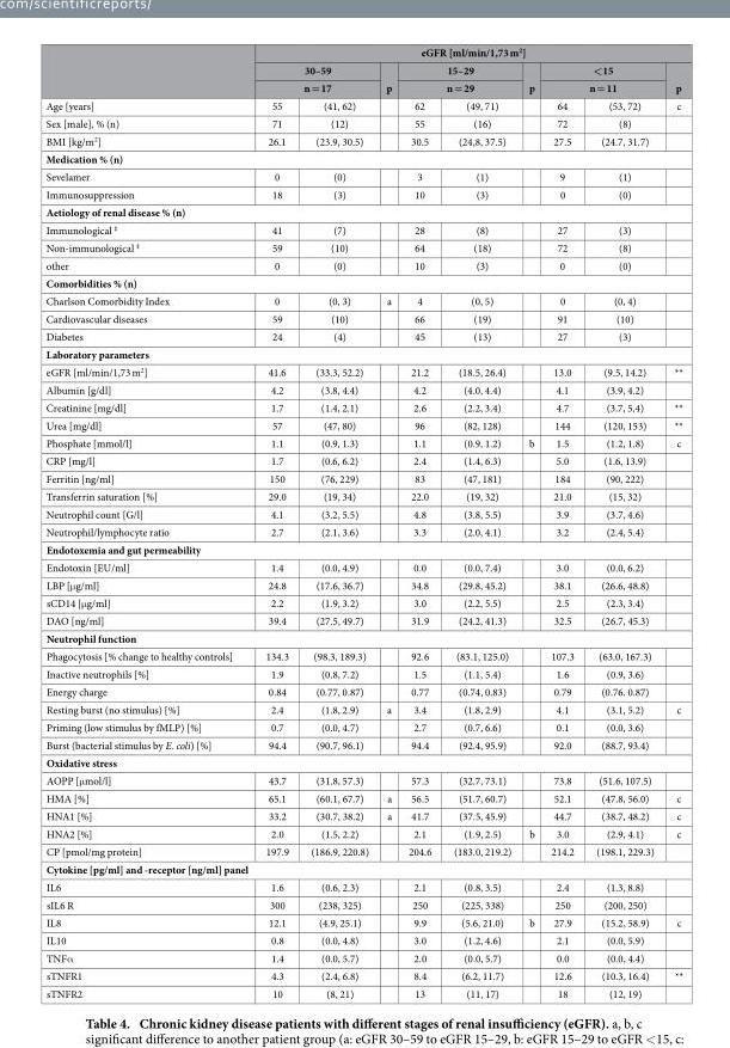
<table><thead><tr><td rowspan="4">Age [years]</td><td colspan="9">eGFR [ml/min/1,73 m<sup>2</sup>]</td></tr><tr><td rowspan="2" colspan="2">30–59 n = 17</td><td rowspan="3">p</td><td rowspan="2" colspan="2">15–29 n = 29</td><td rowspan="3">p</td><td rowspan="2" colspan="2">&lt;15 n = 11</td><td rowspan="3">p c</td></tr><tr></tr><tr><td>55</td><td>(41, 62)</td><td>62</td><td>(49, 71)</td><td>64</td><td>(53, 72)</td></tr></thead><tbody><tr><td>Sex [male], % (n)</td><td>71</td><td>(12)</td><td></td><td>55</td><td>(16)</td><td></td><td>72</td><td>(8)</td><td></td></tr><tr><td>BMI [kg/m<sup>2</sup>]</td><td>26.1</td><td>(23.9, 30.5)</td><td></td><td>30.5</td><td>(24,8, 37.5)</td><td></td><td>27.5</td><td>(24.7, 31.7)</td><td></td></tr><tr><td colspan="10">Medication % (n)</td></tr><tr><td>Sevelamer</td><td>0</td><td>(0)</td><td></td><td>3</td><td>(1)</td><td></td><td>9</td><td>(1)</td><td></td></tr><tr><td>Immunosuppression</td><td>18</td><td>(3)</td><td></td><td>10</td><td>(3)</td><td></td><td>0</td><td>(0)</td><td></td></tr><tr><td colspan="10">Aetiology of renal disease % (n)</td></tr><tr><td>Immunological ‡</td><td>41</td><td>(7)</td><td></td><td>28</td><td>(8)</td><td></td><td>27</td><td>(3)</td><td></td></tr><tr><td>Non-immunological ‡</td><td>59</td><td>(10)</td><td></td><td>64</td><td>(18)</td><td></td><td>72</td><td>(8)</td><td></td></tr><tr><td>other</td><td>0</td><td>(0)</td><td></td><td>10</td><td>(3)</td><td></td><td>0</td><td>(0)</td><td></td></tr><tr><td colspan="10">Comorbidities % (n)</td></tr><tr><td>Charlson Comorbidity Index</td><td>0</td><td>(0, 3)</td><td>a</td><td>4</td><td>(0, 5)</td><td></td><td>0</td><td>(0, 4)</td><td></td></tr><tr><td>Cardiovascular diseases</td><td>59</td><td>(10)</td><td></td><td>66</td><td>(19)</td><td></td><td>91</td><td>(10)</td><td></td></tr><tr><td>Diabetes</td><td>24</td><td>(4)</td><td></td><td>45</td><td>(13)</td><td></td><td>27</td><td>(3)</td><td></td></tr><tr><td colspan="10">Laboratory parameters</td></tr><tr><td>eGFR [ml/min/1,73 m<sup>2</sup>]</td><td>41.6</td><td>(33.3, 52.2)</td><td></td><td>21.2</td><td>(18.5, 26.4)</td><td></td><td>13.0</td><td>(9.5, 14.2)</td><td>**</td></tr><tr><td>Albumin [g/dl]</td><td>4.2</td><td>(3.8, 4.4)</td><td></td><td>4.2</td><td>(4.0, 4.4)</td><td></td><td>4.1</td><td>(3.9, 4.2)</td><td></td></tr><tr><td>Creatinine [mg/dl]</td><td>1.7</td><td>(1.4, 2.1)</td><td></td><td>2.6</td><td>(2.2, 3.4)</td><td></td><td>4.7</td><td>(3.7, 5.4)</td><td>**</td></tr><tr><td>Urea [mg/dl]</td><td>57</td><td>(47, 80)</td><td></td><td>96</td><td>(82, 128)</td><td></td><td>144</td><td>(120, 153)</td><td>**</td></tr><tr><td>Phosphate [mmol/l]</td><td>1.1</td><td>(0.9, 1.3)</td><td></td><td>1.1</td><td>(0.9, 1.2)</td><td>b</td><td>1.5</td><td>(1.2, 1.8)</td><td>c</td></tr><tr><td>CRP [mg/l]</td><td>1.7</td><td>(0.6, 6.2)</td><td></td><td>2.4</td><td>(1.4, 6.3)</td><td></td><td>5.0</td><td>(1.6, 13.9)</td><td></td></tr><tr><td>Ferritin [ng/ml]</td><td>150</td><td>(76, 229)</td><td></td><td>83</td><td>(47, 181)</td><td></td><td>184</td><td>(90, 222)</td><td></td></tr><tr><td>Transferrin saturation [%]</td><td>29.0</td><td>(19, 34)</td><td></td><td>22.0</td><td>(19, 32)</td><td></td><td>21.0</td><td>(15, 32)</td><td></td></tr><tr><td>Neutrophil count [G/l]</td><td>4.1</td><td>(3.2, 5.5)</td><td></td><td>4.8</td><td>(3.8, 5.5)</td><td></td><td>3.9</td><td>(3.7, 4.6)</td><td></td></tr><tr><td>Neutrophil/lymphocyte ratio</td><td>2.7</td><td>(2.1, 3.6)</td><td></td><td>3.3</td><td>(2.0, 4.1)</td><td></td><td>3.2</td><td>(2.4, 5.4)</td><td></td></tr><tr><td colspan="10">Endotoxemia and gut permeability</td></tr><tr><td>Endotoxin [EU/ml]</td><td>1.4</td><td>(0.0, 4.9)</td><td></td><td>0.0</td><td>(0.0, 7.4)</td><td></td><td>3.0</td><td>(0.0, 6.2)</td><td></td></tr><tr><td>LBP [μ g/ml]</td><td>24.8</td><td>(17.6, 36.7)</td><td></td><td>34.8</td><td>(29.8, 45.2)</td><td></td><td>38.1</td><td>(26.6, 48.8)</td><td></td></tr><tr><td>sCD14 [μ g/ml]</td><td>2.2</td><td>(1.9, 3.2)</td><td></td><td>3.0</td><td>(2.2, 5.5)</td><td></td><td>2.5</td><td>(2.3, 3.4)</td><td></td></tr><tr><td>DAO [ng/ml]</td><td>39.4</td><td>(27.5, 49.7)</td><td></td><td>31.9</td><td>(24.2, 41.3)</td><td></td><td>32.5</td><td>(26.7, 45.3)</td><td></td></tr><tr><td colspan="10">Neutrophil function</td></tr><tr><td>Phagocytosis [% change to healthy controls]</td><td>134.3</td><td>(98.3, 189.3)</td><td></td><td>92.6</td><td>(83.1, 125.0)</td><td></td><td>107.3</td><td>(63.0, 167.3)</td><td></td></tr><tr><td>Inactive neutrophils [%]</td><td>1.9</td><td>(0.8, 7.2)</td><td></td><td>1.5</td><td>(1.1, 5.4)</td><td></td><td>1.6</td><td>(0.9, 3.6)</td><td></td></tr><tr><td>Energy charge</td><td>0.84</td><td>(0.77, 0.87)</td><td></td><td>0.77</td><td>(0.74, 0.83)</td><td></td><td>0.79</td><td>(0.76. 0.87)</td><td></td></tr><tr><td>Resting burst (no stimulus) [%]</td><td>2.4</td><td>(1.8, 2.9)</td><td>a</td><td>3.4</td><td>(1.8, 2.9)</td><td></td><td>4.1</td><td>(3.1, 5.2)</td><td>c</td></tr><tr><td>Priming (low stimulus by fMLP) [%]</td><td>0.7</td><td>(0.0, 4.7)</td><td></td><td>2.7</td><td>(0.7, 6.6)</td><td></td><td>0.1</td><td>(0.0, 3.6)</td><td></td></tr><tr><td>Burst (bacterial stimulus by E. coli) [%]</td><td>94.4</td><td>(90.7, 96.1)</td><td></td><td>94.4</td><td>(92.4, 95.9)</td><td></td><td>92.0</td><td>(88.7, 93.4)</td><td></td></tr><tr><td colspan="10">Oxidative stress</td></tr><tr><td>AOPP [μ mol/l]</td><td>43.7</td><td>(31.8, 57.3)</td><td></td><td>57.3</td><td>(32.7, 73.1)</td><td></td><td>73.8</td><td>(51.6, 107.5)</td><td></td></tr><tr><td>HMA [%]</td><td>65.1</td><td>(60.1, 67.7)</td><td>a</td><td>56.5</td><td>(51.7, 60.7)</td><td></td><td>52.1</td><td>(47.8, 56.0)</td><td>c</td></tr><tr><td>HNA1 [%]</td><td>33.2</td><td>(30.7, 38.2)</td><td>a</td><td>41.7</td><td>(37.5, 45.9)</td><td></td><td>44.7</td><td>(38.7, 48.2)</td><td>c</td></tr><tr><td>HNA2 [%]</td><td>2.0</td><td>(1.5, 2.2)</td><td></td><td>2.1</td><td>(1.9, 2.5)</td><td>b</td><td>3.0</td><td>(2.9, 4.1)</td><td>c</td></tr><tr><td>CP [pmol/mg protein]</td><td>197.9</td><td>(186.9, 220.8)</td><td></td><td>204.6</td><td>(183.0, 219.2)</td><td></td><td>214.2</td><td>(198.1, 229.3)</td><td></td></tr><tr><td colspan="10">Cytokine [pg/ml] and -receptor [ng/ml] panel</td></tr><tr><td>IL6</td><td>1.6</td><td>(0.6, 2.3)</td><td></td><td>2.1</td><td>(0.8, 3.5)</td><td></td><td>2.4</td><td>(1.3, 8.8)</td><td></td></tr><tr><td>sIL6 R</td><td>300</td><td>(238, 325)</td><td></td><td>250</td><td>(225, 338)</td><td></td><td>250</td><td>(200, 250)</td><td></td></tr><tr><td>IL8</td><td>12.1</td><td>(4.9, 25.1)</td><td></td><td>9.9</td><td>(5.6, 21.0)</td><td>b</td><td>27.9</td><td>(15.2, 58.9)</td><td>c</td></tr><tr><td>IL10</td><td>0.8</td><td>(0.0, 4.8)</td><td></td><td>3.0</td><td>(1.2, 4.6)</td><td></td><td>2.1</td><td>(0.0, 5.9)</td><td></td></tr><tr><td>TNFα</td><td>1.4</td><td>(0.0, 5.7)</td><td></td><td>2.0</td><td>(0.0, 5.7)</td><td></td><td>0.0</td><td>(0.0, 4.4)</td><td></td></tr><tr><td>sTNFR1</td><td>4.3</td><td>(2.4, 6.8)</td><td></td><td>8.4</td><td>(6.2, 11.7)</td><td></td><td>12.6</td><td>(10.3, 16.4)</td><td>**</td></tr><tr><td>sTNFR2</td><td>10</td><td>(8, 21)</td><td></td><td>13</td><td>(11, 17)</td><td></td><td>18</td><td>(12, 19)</td><td></td></tr></tbody></table>